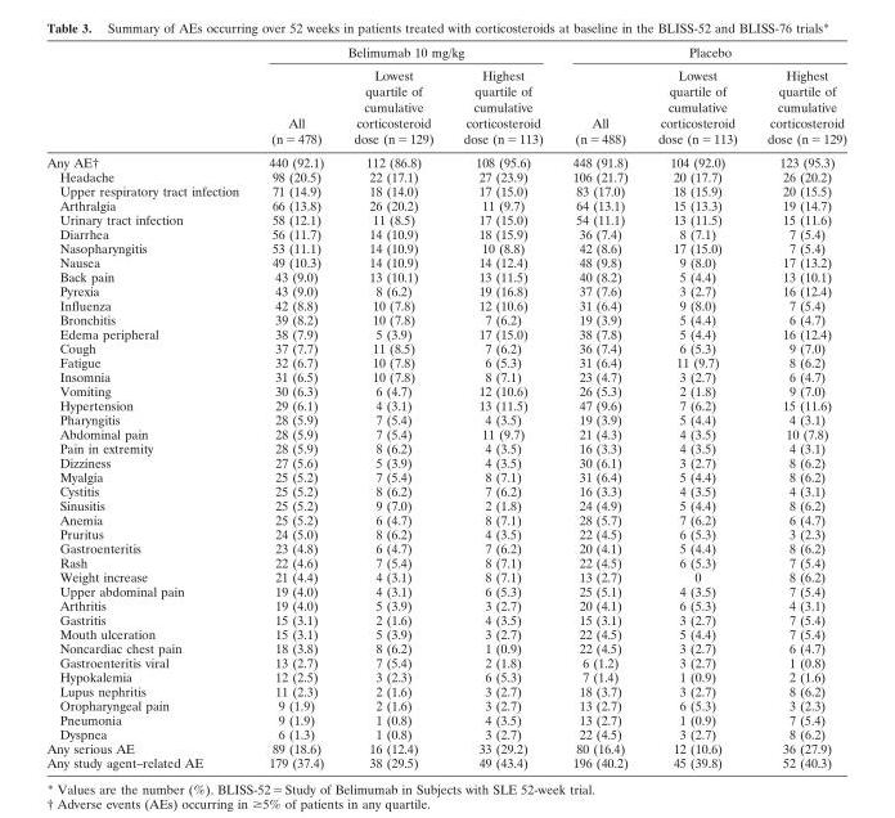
<table><thead><tr><td rowspan="2"></td><td colspan="3">Belimumab 10 mg/kg</td><td colspan="3">Placebo</td></tr><tr><td>All (n = 478)</td><td>Lowest quartile of cumulative corticosteroid dose (n = 129)</td><td>Highest quartile of cumulative corticosteroid dose (n = 113)</td><td>All (n = 488)</td><td>Lowest quartile of cumulative corticosteroid dose (n = 113)</td><td>Highest quartile of cumulative corticosteroid dose (n = 129)</td></tr></thead><tbody><tr><td>Any AE†</td><td>440 (92.1)</td><td>112 (86.8)</td><td>108 (95.6)</td><td>448 (91.8)</td><td>104 (92.0)</td><td>123 (95.3)</td></tr><tr><td>Headache</td><td>98 (20.5)</td><td>22 (17.1)</td><td>27 (23.9)</td><td>106 (21.7)</td><td>20 (17.7)</td><td>26 (20.2)</td></tr><tr><td>Upper respiratory tract infection</td><td>71 (14.9)</td><td>18 (14.0)</td><td>17 (15.0)</td><td>83 (17.0)</td><td>18 (15.9)</td><td>20 (15.5)</td></tr><tr><td>Arthralgia</td><td>66 (13.8)</td><td>26 (20.2)</td><td>11 (9.7)</td><td>64 (13.1)</td><td>15 (13.3)</td><td>19 (14.7)</td></tr><tr><td>Urinary tract infection</td><td>58 (12.1)</td><td>11 (8.5)</td><td>17 (15.0)</td><td>54 (11.1)</td><td>13 (11.5)</td><td>15 (11.6)</td></tr><tr><td>Diarrhea</td><td>56 (11.7)</td><td>14 (10.9)</td><td>18 (15.9)</td><td>36 (7.4)</td><td>8 (7.1)</td><td>7 (5.4)</td></tr><tr><td>Nasopharyngitis</td><td>53 (11.1)</td><td>14 (10.9)</td><td>10 (8.8)</td><td>42 (8.6)</td><td>17 (15.0)</td><td>7 (5.4)</td></tr><tr><td>Nausea</td><td>49 (10.3)</td><td>14 (10.9)</td><td>14 (12.4)</td><td>48 (9.8)</td><td>9 (8.0)</td><td>17 (13.2)</td></tr><tr><td>Back pain</td><td>43 (9.0)</td><td>13 (10.1)</td><td>13 (11.5)</td><td>40 (8.2)</td><td>5 (4.4)</td><td>13 (10.1)</td></tr><tr><td>Pyrexia</td><td>43 (9.0)</td><td>8 (6.2)</td><td>19 (16.8)</td><td>37 (7.6)</td><td>3 (2.7)</td><td>16 (12.4)</td></tr><tr><td>Influenza</td><td>42 (8.8)</td><td>10 (7.8)</td><td>12 (10.6)</td><td>31 (6.4)</td><td>9 (8.0)</td><td>7 (5.4)</td></tr><tr><td>Bronchitis</td><td>39 (8.2)</td><td>10 (7.8)</td><td>7 (6.2)</td><td>19 (3.9)</td><td>5 (4.4)</td><td>6 (4.7)</td></tr><tr><td>Edema peripheral</td><td>38 (7.9)</td><td>5 (3.9)</td><td>17 (15.0)</td><td>38 (7.8)</td><td>5 (4.4)</td><td>16 (12.4)</td></tr><tr><td>Cough</td><td>37 (7.7)</td><td>11 (8.5)</td><td>7 (6.2)</td><td>36 (7.4)</td><td>6 (5.3)</td><td>9 (7.0)</td></tr><tr><td>Fatigue</td><td>32 (6.7)</td><td>10 (7.8)</td><td>6 (5.3)</td><td>31 (6.4)</td><td>11 (9.7)</td><td>8 (6.2)</td></tr><tr><td>Insomnia</td><td>31 (6.5)</td><td>10 (7.8)</td><td>8 (7.1)</td><td>23 (4.7)</td><td>3 (2.7)</td><td>6 (4.7)</td></tr><tr><td>Vomiting</td><td>30 (6.3)</td><td>6 (4.7)</td><td>12 (10.6)</td><td>26 (5.3)</td><td>2 (1.8)</td><td>9 (7.0)</td></tr><tr><td>Hypertension</td><td>29 (6.1)</td><td>4 (3.1)</td><td>13 (11.5)</td><td>47 (9.6)</td><td>7 (6.2)</td><td>15 (11.6)</td></tr><tr><td>Pharyngitis</td><td>28 (5.9)</td><td>7 (5.4)</td><td>4 (3.5)</td><td>19 (3.9)</td><td>5 (4.4)</td><td>4 (3.1)</td></tr><tr><td>Abdominal pain</td><td>28 (5.9)</td><td>7 (5.4)</td><td>11 (9.7)</td><td>21 (4.3)</td><td>4 (3.5)</td><td>10 (7.8)</td></tr><tr><td>Pain in extremity</td><td>28 (5.9)</td><td>8 (6.2)</td><td>4 (3.5)</td><td>16 (3.3)</td><td>4 (3.5)</td><td>4 (3.1)</td></tr><tr><td>Dizziness</td><td>27 (5.6)</td><td>5 (3.9)</td><td>4 (3.5)</td><td>30 (6.1)</td><td>3 (2.7)</td><td>8 (6.2)</td></tr><tr><td>Myalgia</td><td>25 (5.2)</td><td>7 (5.4)</td><td>8 (7.1)</td><td>31 (6.4)</td><td>5 (4.4)</td><td>8 (6.2)</td></tr><tr><td>Cystitis</td><td>25 (5.2)</td><td>8 (6.2)</td><td>7 (6.2)</td><td>16 (3.3)</td><td>4 (3.5)</td><td>4 (3.1)</td></tr><tr><td>Sinusitis</td><td>25 (5.2)</td><td>9 (7.0)</td><td>2 (1.8)</td><td>24 (4.9)</td><td>5 (4.4)</td><td>8 (6.2)</td></tr><tr><td>Anemia</td><td>25 (5.2)</td><td>6 (4.7)</td><td>8 (7.1)</td><td>28 (5.7)</td><td>7 (6.2)</td><td>6 (4.7)</td></tr><tr><td>Pruritus</td><td>24 (5.0)</td><td>8 (6.2)</td><td>4 (3.5)</td><td>22 (4.5)</td><td>6 (5.3)</td><td>3 (2.3)</td></tr><tr><td>Gastroenteritis</td><td>23 (4.8)</td><td>6 (4.7)</td><td>7 (6.2)</td><td>20 (4.1)</td><td>5 (4.4)</td><td>8 (6.2)</td></tr><tr><td>Rash</td><td>22 (4.6)</td><td>7 (5.4)</td><td>8 (7.1)</td><td>22 (4.5)</td><td>6 (5.3)</td><td>7 (5.4)</td></tr><tr><td>Weight increase</td><td>21 (4.4)</td><td>4 (3.1)</td><td>8 (7.1)</td><td>13 (2.7)</td><td>0</td><td>8 (6.2)</td></tr><tr><td>Upper abdominal pain</td><td>19 (4.0)</td><td>4 (3.1)</td><td>6 (5.3)</td><td>25 (5.1)</td><td>4 (3.5)</td><td>7 (5.4)</td></tr><tr><td>Arthritis</td><td>19 (4.0)</td><td>5 (3.9)</td><td>3 (2.7)</td><td>20 (4.1)</td><td>6 (5.3)</td><td>4 (3.1)</td></tr><tr><td>Gastritis</td><td>15 (3.1)</td><td>2 (1.6)</td><td>4 (3.5)</td><td>15 (3.1)</td><td>3 (2.7)</td><td>7 (5.4)</td></tr><tr><td>Mouth ulceration</td><td>15 (3.1)</td><td>5 (3.9)</td><td>3 (2.7)</td><td>22 (4.5)</td><td>5 (4.4)</td><td>7 (5.4)</td></tr><tr><td>Noncardiac chest pain</td><td>18 (3.8)</td><td>8 (6.2)</td><td>1 (0.9)</td><td>22 (4.5)</td><td>3 (2.7)</td><td>6 (4.7)</td></tr><tr><td>Gastroenteritis viral</td><td>13 (2.7)</td><td>7 (5.4)</td><td>2 (1.8)</td><td>6 (1.2)</td><td>3 (2.7)</td><td>1 (0.8)</td></tr><tr><td>Hypokalemia</td><td>12 (2.5)</td><td>3 (2.3)</td><td>6 (5.3)</td><td>7 (1.4)</td><td>1 (0.9)</td><td>2 (1.6)</td></tr><tr><td>Lupus nephritis</td><td>11 (2.3)</td><td>2 (1.6)</td><td>3 (2.7)</td><td>18 (3.7)</td><td>3 (2.7)</td><td>8 (6.2)</td></tr><tr><td>Oropharyngeal pain</td><td>9 (1.9)</td><td>2 (1.6)</td><td>3 (2.7)</td><td>13 (2.7)</td><td>6 (5.3)</td><td>3 (2.3)</td></tr><tr><td>Pneumonia</td><td>9 (1.9)</td><td>1 (0.8)</td><td>4 (3.5)</td><td>13 (2.7)</td><td>1 (0.9)</td><td>7 (5.4)</td></tr><tr><td>Dyspnea</td><td>6 (1.3)</td><td>1 (0.8)</td><td>3 (2.7)</td><td>22 (4.5)</td><td>3 (2.7)</td><td>8 (6.2)</td></tr><tr><td>Any serious AE</td><td>89 (18.6)</td><td>16 (12.4)</td><td>33 (29.2)</td><td>80 (16.4)</td><td>12 (10.6)</td><td>36 (27.9)</td></tr><tr><td>Any study agent–related AE</td><td>179 (37.4)</td><td>38 (29.5)</td><td>49 (43.4)</td><td>196 (40.2)</td><td>45 (39.8)</td><td>52 (40.3)</td></tr></tbody></table>